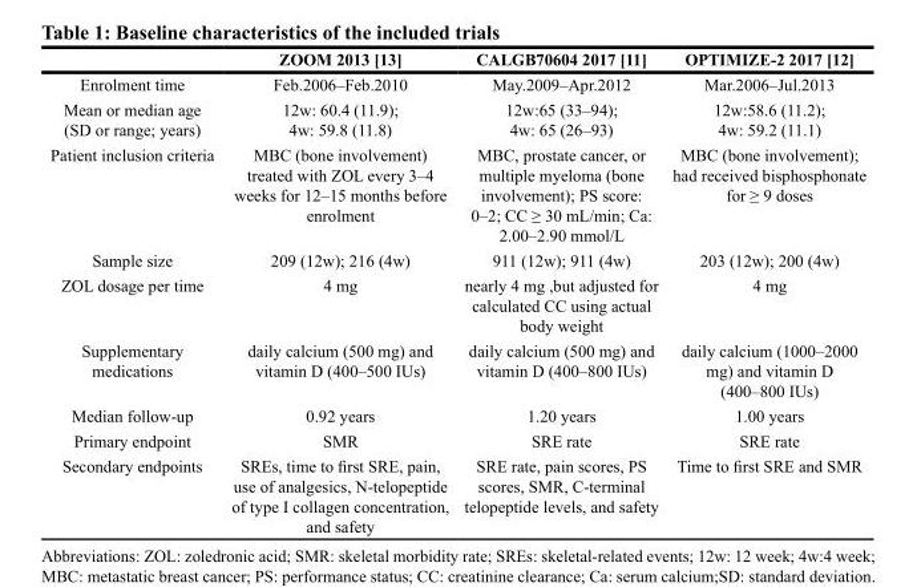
<table><thead><tr><td></td><td>ZOOM 2013 [13]</td><td>CALGB70604 2017 [11]</td><td>OPTIMIZE-2 2017 [12]</td></tr></thead><tbody><tr><td>Enrolment time</td><td>Feb.2006–Feb.2010</td><td>May.2009–Apr.2012</td><td>Mar.2006–Jul.2013</td></tr><tr><td>Mean or median age (SD or range; years)</td><td>12w: 60.4 (11.9); 4w: 59.8 (11.8)</td><td>12w:65 (33–94); 4w: 65 (26–93)</td><td>12w:58.6 (11.2); 4w: 59.2 (11.1)</td></tr><tr><td>Patient inclusion criteria</td><td>MBC (bone involvement) treated with ZOL every 3–4 weeks for 12–15 months before enrolment</td><td>MBC, prostate cancer, or multiple myeloma (bone involvement); PS score: 0–2; CC ≥ 30 mL/min; Ca: 2.00–2.90 mmol/L</td><td>MBC (bone involvement); had received bisphosphonate for ≥ 9 doses</td></tr><tr><td>Sample size</td><td>209 (12w); 216 (4w)</td><td>911 (12w); 911 (4w)</td><td>203 (12w); 200 (4w)</td></tr><tr><td>ZOL dosage per time</td><td>4 mg</td><td>nearly 4 mg ,but adjusted for calculated CC using actual body weight</td><td>4 mg</td></tr><tr><td>Supplementary medications</td><td>daily calcium (500 mg) and vitamin D (400–500 IUs)</td><td>daily calcium (500 mg) and vitamin D (400–800 IUs)</td><td>daily calcium (1000–2000 mg) and vitamin D (400–800 IUs)</td></tr><tr><td>Median follow-up</td><td>0.92 years</td><td>1.20 years</td><td>1.00 years</td></tr><tr><td>Primary endpoint</td><td>SMR</td><td>SRE rate</td><td>SRE rate</td></tr><tr><td>Secondary endpoints</td><td>SREs, time to first SRE, pain, use of analgesics, N-telopeptide of type I collagen concentration, and safety</td><td>SRE rate, pain scores, PS scores, SMR, C-terminal telopeptide levels, and safety</td><td>Time to first SRE and SMR</td></tr></tbody></table>